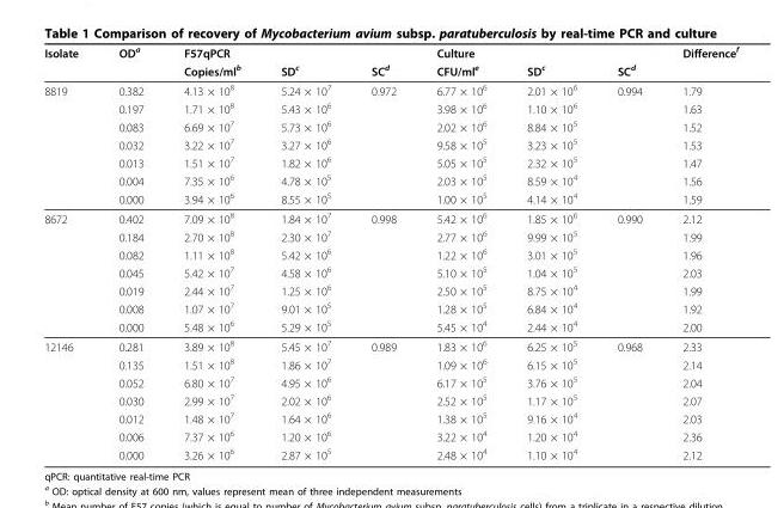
<table><thead><tr><td rowspan="2">Isolate</td><td rowspan="2">OD<sup>a</sup></td><td colspan="3">F57qPCR</td><td colspan="3">Culture</td><td rowspan="2">Difference<sup>f</sup></td></tr><tr><td>Copies/ml<sup>b</sup></td><td>SD<sup>c</sup></td><td>SC<sup>d</sup></td><td>CFU/ml<sup>e</sup></td><td>SD<sup>c</sup></td><td>SC<sup>d</sup></td></tr></thead><tbody><tr><td rowspan="7">8819</td><td>0.382</td><td>4.13 × 10<sup>8</sup></td><td>5.24 × 10<sup>7</sup></td><td>0.972</td><td>6.77 × 10<sup>6</sup></td><td>2.01 × 10<sup>6</sup></td><td>0.994</td><td>1.79</td></tr><tr><td>0.197</td><td>1.71 × 10<sup>8</sup></td><td>5.43 × 10<sup>6</sup></td><td></td><td>3.98 × 10<sup>6</sup></td><td>1.10 × 10<sup>6</sup></td><td></td><td>1.63</td></tr><tr><td>0.083</td><td>6.69 × 10<sup>7</sup></td><td>5.73 × 10<sup>6</sup></td><td></td><td>2.02 × 10<sup>6</sup></td><td>8.84 × 10<sup>5</sup></td><td></td><td>1.52</td></tr><tr><td>0.032</td><td>3.22 × 10<sup>7</sup></td><td>3.27 × 10<sup>6</sup></td><td></td><td>9.58 × 10<sup>5</sup></td><td>3.23 × 10<sup>5</sup></td><td></td><td>1.53</td></tr><tr><td>0.013</td><td>1.51 × 10<sup>7</sup></td><td>1.82 × 10<sup>6</sup></td><td></td><td>5.05 × 10<sup>5</sup></td><td>2.32 × 10<sup>5</sup></td><td></td><td>1.47</td></tr><tr><td>0.004</td><td>7.35 × 10<sup>6</sup></td><td>4.78 × 10<sup>5</sup></td><td></td><td>2.03 × 10<sup>5</sup></td><td>8.59 × 10<sup>4</sup></td><td></td><td>1.56</td></tr><tr><td>0.000</td><td>3.94 × 10<sup>6</sup></td><td>8.55 × 10<sup>5</sup></td><td></td><td>1.00 × 10<sup>5</sup></td><td>4.14 × 10<sup>4</sup></td><td></td><td>1.59</td></tr><tr><td rowspan="7">8672</td><td>0.402</td><td>7.09 × 10<sup>8</sup></td><td>1.84 × 10<sup>7</sup></td><td>0.998</td><td>5.42 × 10<sup>6</sup></td><td>1.85 × 10<sup>6</sup></td><td>0.990</td><td>2.12</td></tr><tr><td>0.184</td><td>2.70 × 10<sup>8</sup></td><td>2.30 × 10<sup>7</sup></td><td></td><td>2.77 × 10<sup>6</sup></td><td>9.99 × 10<sup>5</sup></td><td></td><td>1.99</td></tr><tr><td>0.082</td><td>1.11 × 10<sup>8</sup></td><td>5.42 × 10<sup>6</sup></td><td></td><td>1.22 × 10<sup>6</sup></td><td>3.01 × 10<sup>5</sup></td><td></td><td>1.96</td></tr><tr><td>0.045</td><td>5.42 × 10<sup>7</sup></td><td>4.58 × 10<sup>6</sup></td><td></td><td>5.10 × 10<sup>5</sup></td><td>1.04 × 10<sup>5</sup></td><td></td><td>2.03</td></tr><tr><td>0.019</td><td>2.44 × 10<sup>7</sup></td><td>1.25 × 10<sup>6</sup></td><td></td><td>2.50 × 10<sup>5</sup></td><td>8.75 × 10<sup>4</sup></td><td></td><td>1.99</td></tr><tr><td>0.008</td><td>1.07 × 10<sup>7</sup></td><td>9.01 × 10<sup>5</sup></td><td></td><td>1.28 × 10<sup>5</sup></td><td>6.84 × 10<sup>4</sup></td><td></td><td>1.92</td></tr><tr><td>0.000</td><td>5.48 × 10<sup>6</sup></td><td>5.29 × 10<sup>5</sup></td><td></td><td>5.45 × 10<sup>4</sup></td><td>2.44 × 10<sup>4</sup></td><td></td><td>2.00</td></tr><tr><td rowspan="7">12146</td><td>0.281</td><td>3.89 × 10<sup>8</sup></td><td>5.45 × 10<sup>7</sup></td><td>0.989</td><td>1.83 × 10<sup>6</sup></td><td>6.25 × 10<sup>5</sup></td><td>0.968</td><td>2.33</td></tr><tr><td>0.135</td><td>1.51 × 10<sup>8</sup></td><td>1.86 × 10<sup>7</sup></td><td></td><td>1.09 × 10<sup>6</sup></td><td>6.15 × 10<sup>5</sup></td><td></td><td>2.14</td></tr><tr><td>0.052</td><td>6.80 × 10<sup>7</sup></td><td>4.95 × 10<sup>6</sup></td><td></td><td>6.17 × 10<sup>5</sup></td><td>3.76 × 10<sup>5</sup></td><td></td><td>2.04</td></tr><tr><td>0.030</td><td>2.99 × 10<sup>7</sup></td><td>2.02 × 10<sup>6</sup></td><td></td><td>2.52 × 10<sup>5</sup></td><td>1.17 × 10<sup>5</sup></td><td></td><td>2.07</td></tr><tr><td>0.012</td><td>1.48 × 10<sup>7</sup></td><td>1.64 × 10<sup>6</sup></td><td></td><td>1.38 × 10<sup>5</sup></td><td>9.16 × 10<sup>4</sup></td><td></td><td>2.03</td></tr><tr><td>0.006</td><td>7.37 × 10<sup>6</sup></td><td>1.20 × 10<sup>6</sup></td><td></td><td>3.22 × 10<sup>4</sup></td><td>1.20 × 10<sup>4</sup></td><td></td><td>2.36</td></tr><tr><td>0.000</td><td>3.26 × 10<sup>6</sup></td><td>2.87 × 10<sup>5</sup></td><td></td><td>2.48 × 10<sup>4</sup></td><td>1.10 × 10<sup>4</sup></td><td></td><td>2.12</td></tr></tbody></table>